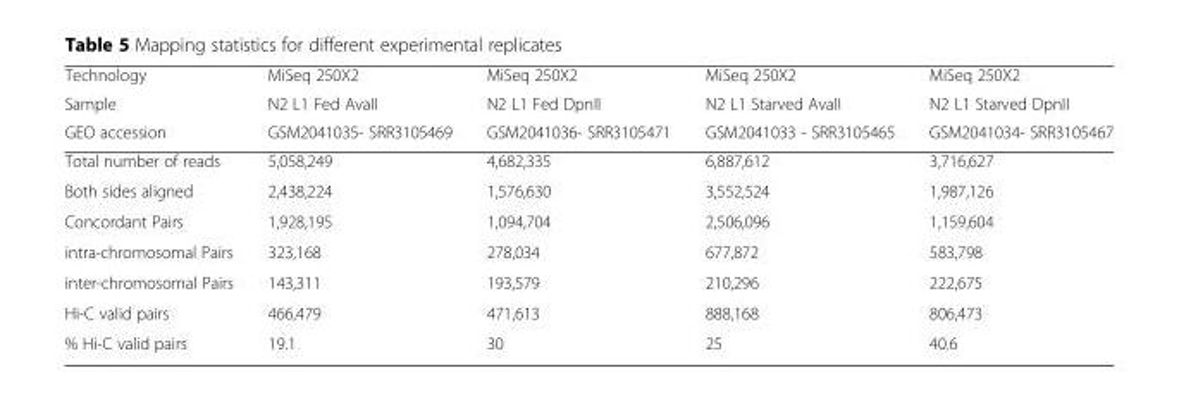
<table><thead><tr><td rowspan="3">Technology Sample GEO accession</td><td rowspan="3">MiSeq 250X2 N2 L1 Fed AvaII GSM2041035- SRR3105469</td><td rowspan="3">MiSeq 250X2 N2 L1 Fed DpnII GSM2041036- SRR3105471</td><td rowspan="3">MiSeq 250X2 N2 L1 Starved AvaII GSM2041033 - SRR3105465</td><td rowspan="3">MiSeq 250X2 N2 L1 Starved DpnII GSM2041034- SRR3105467</td></tr><tr></tr><tr></tr></thead><tbody><tr><td>Total number of reads</td><td>5,058,249</td><td>4,682,335</td><td>6,887,612</td><td>3,716,627</td></tr><tr><td>Both sides aligned</td><td>2,438,224</td><td>1,576,630</td><td>3,552,524</td><td>1,987,126</td></tr><tr><td>Concordant Pairs</td><td>1,928,195</td><td>1,094,704</td><td>2,506,096</td><td>1,159,604</td></tr><tr><td>intra-chromosomal Pairs</td><td>323,168</td><td>278,034</td><td>677,872</td><td>583,798</td></tr><tr><td>inter-chromosomal Pairs</td><td>143,311</td><td>193,579</td><td>210,296</td><td>222,675</td></tr><tr><td>Hi-C valid pairs</td><td>466,479</td><td>471,613</td><td>888,168</td><td>806,473</td></tr><tr><td>% Hi-C valid pairs</td><td>19.1</td><td>30</td><td>25</td><td>40.6</td></tr></tbody></table>